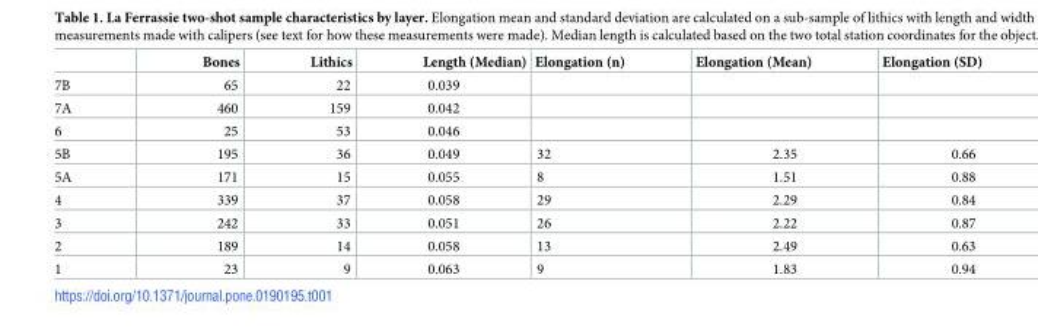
<table><thead><tr><td></td><td>Bones</td><td>Lithics</td><td>Length (Median)</td><td>Elongation (n)</td><td>Elongation (Mean)</td><td>Elongation (SD)</td></tr></thead><tbody><tr><td>7B</td><td>65</td><td>22</td><td>0.039</td><td></td><td></td><td></td></tr><tr><td>7A</td><td>460</td><td>159</td><td>0.042</td><td></td><td></td><td></td></tr><tr><td>6</td><td>25</td><td>53</td><td>0.046</td><td></td><td></td><td></td></tr><tr><td>5B</td><td>195</td><td>36</td><td>0.049</td><td>32</td><td>2.35</td><td>0.66</td></tr><tr><td>5A</td><td>171</td><td>15</td><td>0.055</td><td>8</td><td>1.51</td><td>0.88</td></tr><tr><td>4</td><td>339</td><td>37</td><td>0.058</td><td>29</td><td>2.29</td><td>0.84</td></tr><tr><td>3</td><td>242</td><td>33</td><td>0.051</td><td>26</td><td>2.22</td><td>0.87</td></tr><tr><td>2</td><td>189</td><td>14</td><td>0.058</td><td>13</td><td>2.49</td><td>0.63</td></tr><tr><td>1</td><td>23</td><td>9</td><td>0.063</td><td>9</td><td>1.83</td><td>0.94</td></tr></tbody></table>